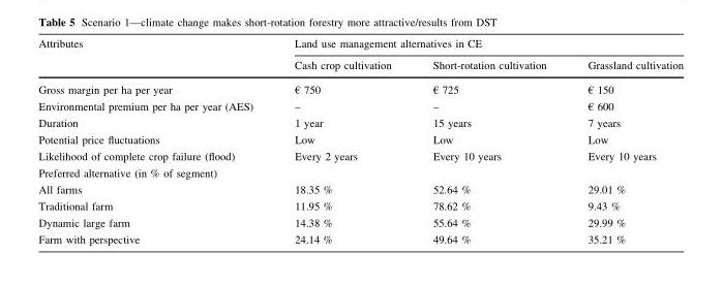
<table><thead><tr><td rowspan="2">Attributes</td><td colspan="3">Land use management alternatives in CE</td></tr><tr><td>Cash crop cultivation</td><td>Short-rotation cultivation</td><td>Grassland cultivation</td></tr></thead><tbody><tr><td>Gross margin per ha per year</td><td>€ 750</td><td>€ 725</td><td>€ 150</td></tr><tr><td>Environmental premium per ha per year (AES)</td><td>–</td><td>–</td><td>€ 600</td></tr><tr><td>Duration</td><td>1 year</td><td>15 years</td><td>7 years</td></tr><tr><td>Potential price fluctuations</td><td>Low</td><td>Low</td><td>Low</td></tr><tr><td>Likelihood of complete crop failure (flood)</td><td>Every 2 years</td><td>Every 10 years</td><td>Every 10 years</td></tr><tr><td colspan="4">Preferred alternative (in % of segment)</td></tr><tr><td>All farms</td><td>18.35 %</td><td>52.64 %</td><td>29.01 %</td></tr><tr><td>Traditional farm</td><td>11.95 %</td><td>78.62 %</td><td>9.43 %</td></tr><tr><td>Dynamic large farm</td><td>14.38 %</td><td>55.64 %</td><td>29.99 %</td></tr><tr><td>Farm with perspective</td><td>24.14 %</td><td>49.64 %</td><td>35.21 %</td></tr></tbody></table>